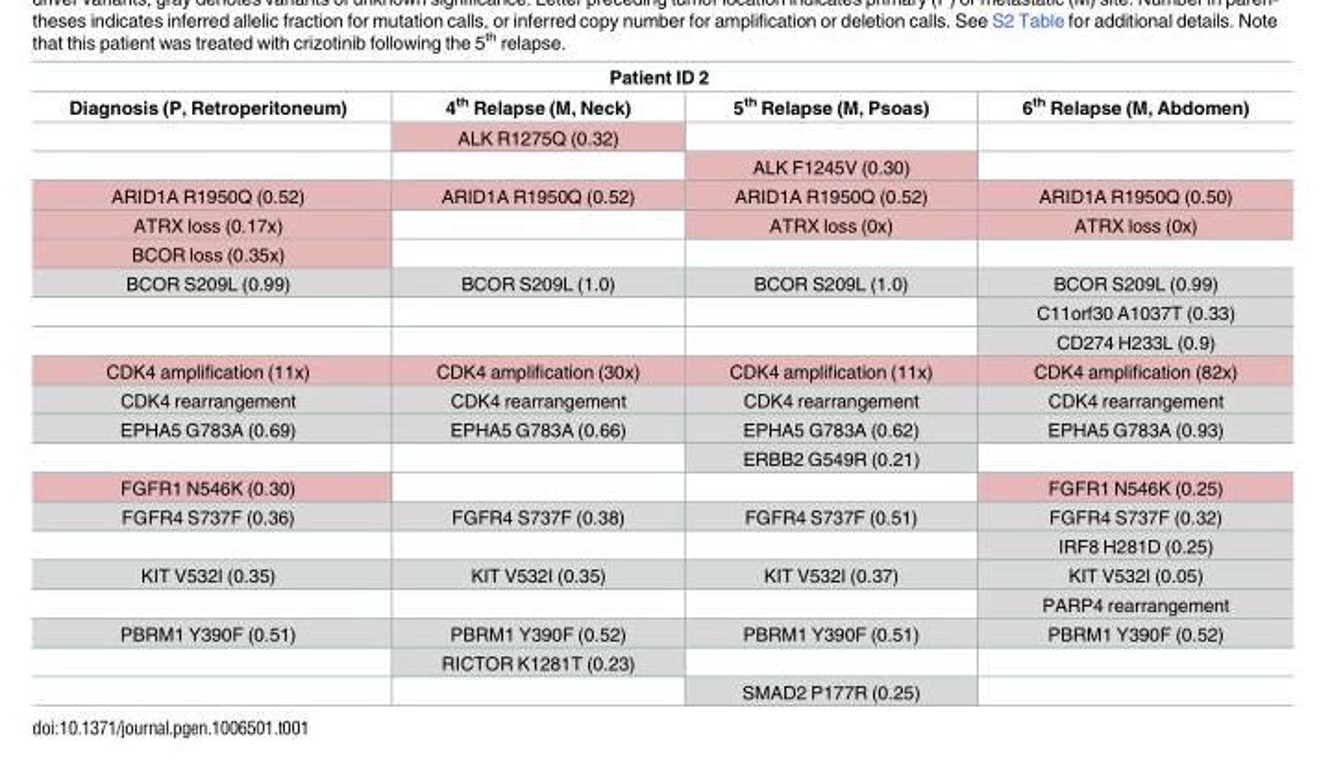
<table><thead><tr><td colspan="4">Patient ID 2</td></tr><tr><td>Diagnosis (P, Retroperitoneum)</td><td>4<sup>th</sup> Relapse (M, Neck)</td><td>5<sup>th</sup> Relapse (M, Psoas)</td><td>6<sup>th</sup> Relapse (M, Abdomen)</td></tr></thead><tbody><tr><td></td><td>ALK R1275Q (0.32)</td><td></td><td></td></tr><tr><td></td><td></td><td>ALK F1245V (0.30)</td><td></td></tr><tr><td>ARID1A R1950Q (0.52)</td><td>ARID1A R1950Q (0.52)</td><td>ARID1A R1950Q (0.52)</td><td>ARID1A R1950Q (0.50)</td></tr><tr><td>ATRX loss (0.17x)</td><td></td><td>ATRX loss (0x)</td><td>ATRX loss (0x)</td></tr><tr><td colspan="4">BCOR loss (0.35x)</td></tr><tr><td rowspan="3">BCOR S209L (0.99)</td><td>BCOR S209L (1.0)</td><td>BCOR S209L (1.0)</td><td>BCOR S209L (0.99)</td></tr><tr><td></td><td></td><td>C11orf30 A1037T (0.33)</td></tr><tr><td></td><td></td><td>CD274 H233L (0.9)</td></tr><tr><td>CDK4 amplification (11x)</td><td>CDK4 amplification (30x)</td><td>CDK4 amplification (11x)</td><td>CDK4 amplification (82x)</td></tr><tr><td>CDK4 rearrangement</td><td>CDK4 rearrangement</td><td>CDK4 rearrangement</td><td>CDK4 rearrangement</td></tr><tr><td rowspan="2">EPHA5 G783A (0.69)</td><td>EPHA5 G783A (0.66)</td><td>EPHA5 G783A (0.62)</td><td>EPHA5 G783A (0.93)</td></tr><tr><td></td><td>ERBB2 G549R (0.21)</td><td></td></tr><tr><td>FGFR1 N546K (0.30)</td><td></td><td></td><td>FGFR1 N546K (0.25)</td></tr><tr><td rowspan="2">FGFR4 S737F (0.36)</td><td>FGFR4 S737F (0.38)</td><td>FGFR4 S737F (0.51)</td><td>FGFR4 S737F (0.32)</td></tr><tr><td></td><td></td><td>IRF8 H281D (0.25)</td></tr><tr><td rowspan="2">KIT V532I (0.35)</td><td>KIT V532I (0.35)</td><td>KIT V532I (0.37)</td><td>KIT V532I (0.05)</td></tr><tr><td></td><td></td><td>PARP4 rearrangement</td></tr><tr><td rowspan="3">PBRM1 Y390F (0.51)</td><td>PBRM1 Y390F (0.52)</td><td>PBRM1 Y390F (0.51)</td><td>PBRM1 Y390F (0.52)</td></tr><tr><td>RICTOR K1281T (0.23)</td><td></td><td></td></tr><tr><td></td><td>SMAD2 P177R (0.25)</td><td></td></tr></tbody></table>